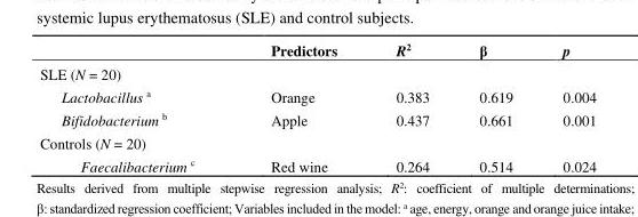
<table><thead><tr><td></td><td>Predictors</td><td>R<sup>2</sup></td><td>β</td><td>p</td></tr></thead><tbody><tr><td colspan="5">SLE (N = 20)</td></tr><tr><td>Lactobacillus <sup>a</sup></td><td>Orange</td><td>0.383</td><td>0.619</td><td>0.004</td></tr><tr><td>Bifidobacterium <sup>b</sup></td><td>Apple</td><td>0.437</td><td>0.661</td><td>0.001</td></tr><tr><td colspan="5">Controls (N = 20)</td></tr><tr><td>Faecalibacterium <sup>c</sup></td><td>Red wine</td><td>0.264</td><td>0.514</td><td>0.024</td></tr></tbody></table>